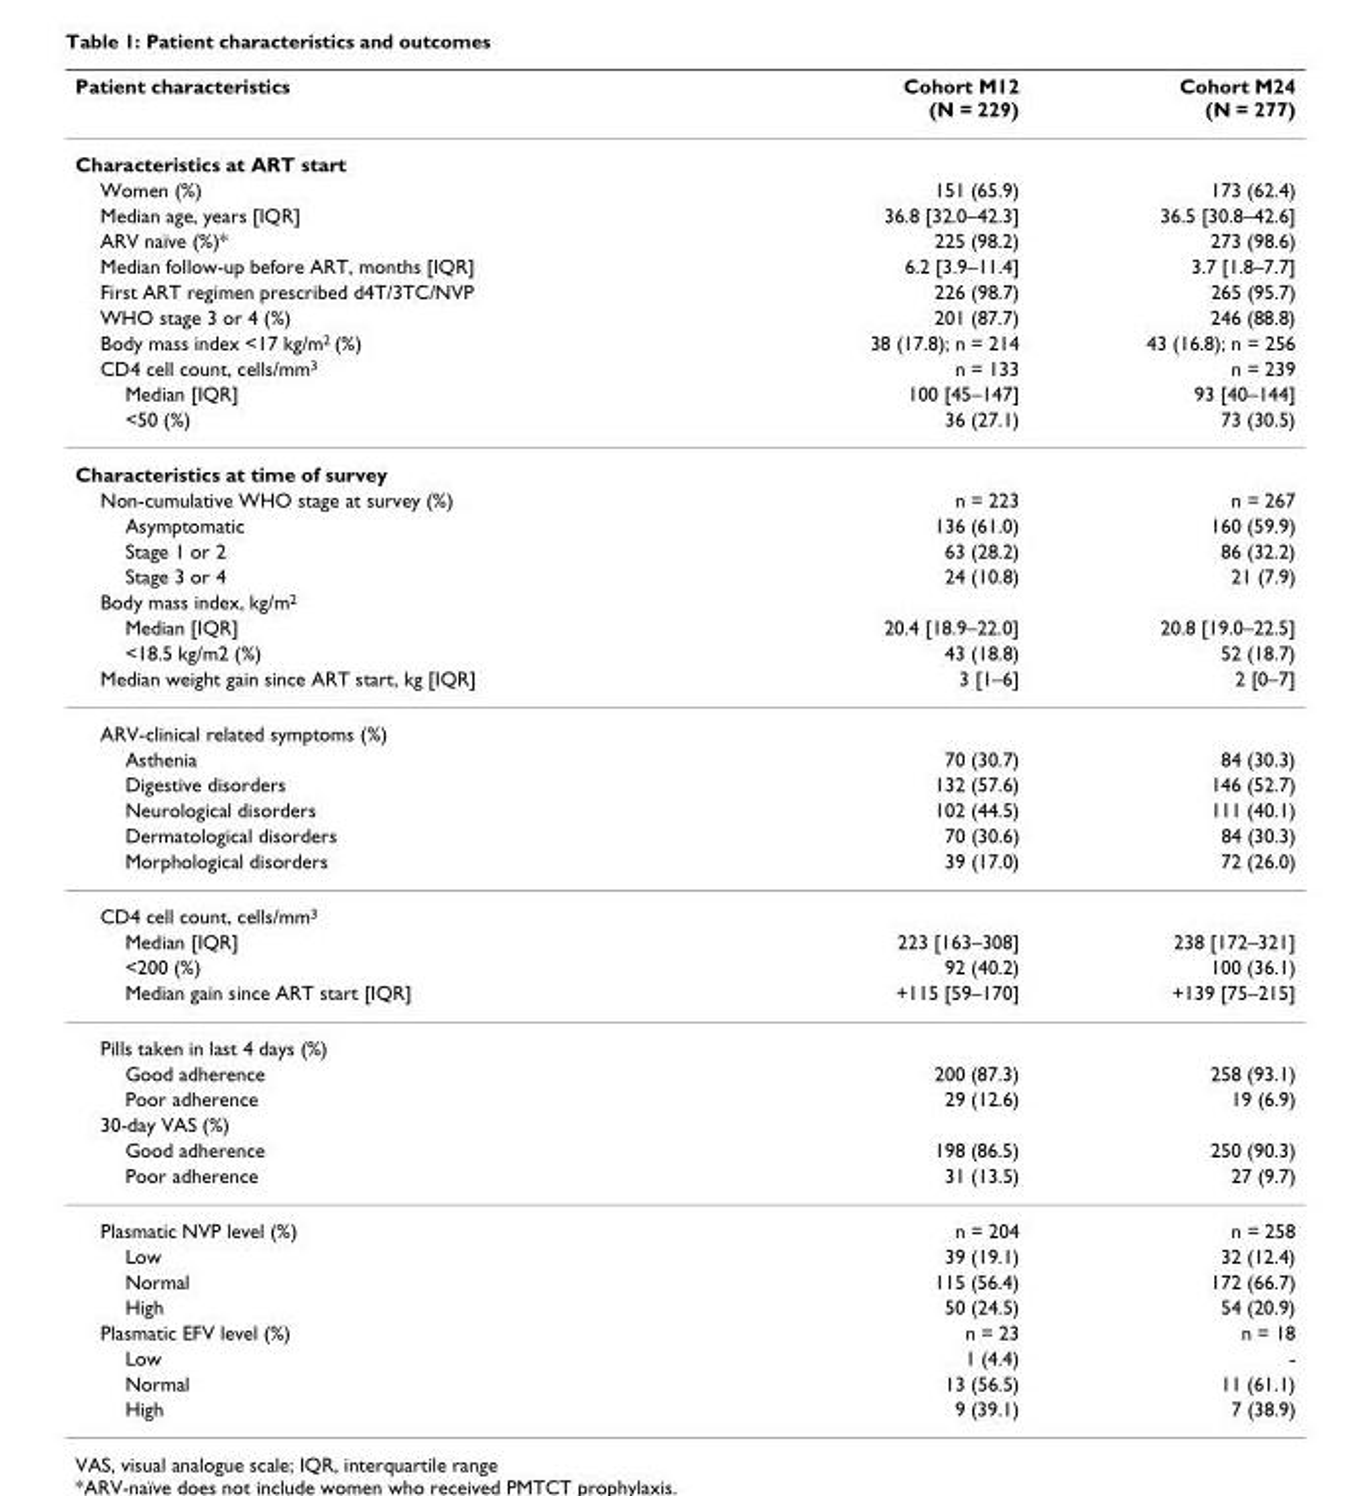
<table><thead><tr><td>Patient characteristics</td><td>Cohort M12 (N = 229)</td><td>Cohort M24 (N = 277)</td></tr></thead><tbody><tr><td colspan="3">Characteristics at ART start</td></tr><tr><td>Women (%)</td><td>151 (65.9)</td><td>173 (62.4)</td></tr><tr><td>Median age, years [IQR]</td><td>36.8 [32.0–42.3]</td><td>36.5 [30.8–42.6]</td></tr><tr><td>ARV naïve (%)*</td><td>225 (98.2)</td><td>273 (98.6)</td></tr><tr><td>Median follow-up before ART, months [IQR]</td><td>6.2 [3.9–11.4]</td><td>3.7 [1.8–7.7]</td></tr><tr><td>First ART regimen prescribed d4T/3TC/NVP</td><td>226 (98.7)</td><td>265 (95.7)</td></tr><tr><td>WHO stage 3 or 4 (%)</td><td>201 (87.7)</td><td>246 (88.8)</td></tr><tr><td>Body mass index &lt;17 kg/m<sup>2</sup> (%)</td><td>38 (17.8); n = 214</td><td>43 (16.8); n = 256</td></tr><tr><td>CD4 cell count, cells/mm<sup>3</sup></td><td>n = 133</td><td>n = 239</td></tr><tr><td>Median [IQR]</td><td>100 [45–147]</td><td>93 [40–144]</td></tr><tr><td>&lt;50 (%)</td><td>36 (27.1)</td><td>73 (30.5)</td></tr><tr><td colspan="3">Characteristics at time of survey</td></tr><tr><td>Non-cumulative WHO stage at survey (%)</td><td>n = 223</td><td>n = 267</td></tr><tr><td>Asymptomatic</td><td>136 (61.0)</td><td>160 (59.9)</td></tr><tr><td>Stage 1 or 2</td><td>63 (28.2)</td><td>86 (32.2)</td></tr><tr><td>Stage 3 or 4</td><td>24 (10.8)</td><td>21 (7.9)</td></tr><tr><td colspan="3">Body mass index, kg/m<sup>2</sup></td></tr><tr><td>Median [IQR]</td><td>20.4 [18.9–22.0]</td><td>20.8 [19.0–22.5]</td></tr><tr><td>&lt;18.5 kg/m2 (%)</td><td>43 (18.8)</td><td>52 (18.7)</td></tr><tr><td>Median weight gain since ART start, kg [IQR]</td><td>3 [1–6]</td><td>2 [0–7]</td></tr><tr><td colspan="3">ARV-clinical related symptoms (%)</td></tr><tr><td>Asthenia</td><td>70 (30.7)</td><td>84 (30.3)</td></tr><tr><td>Digestive disorders</td><td>132 (57.6)</td><td>146 (52.7)</td></tr><tr><td>Neurological disorders</td><td>102 (44.5)</td><td>111 (40.1)</td></tr><tr><td>Dermatological disorders</td><td>70 (30.6)</td><td>84 (30.3)</td></tr><tr><td>Morphological disorders</td><td>39 (17.0)</td><td>72 (26.0)</td></tr><tr><td colspan="3">CD4 cell count, cells/mm<sup>3</sup></td></tr><tr><td>Median [IQR]</td><td>223 [163–308]</td><td>238 [172–321]</td></tr><tr><td>&lt;200 (%)</td><td>92 (40.2)</td><td>100 (36.1)</td></tr><tr><td>Median gain since ART start [IQR]</td><td>+115 [59–170]</td><td>+139 [75–215]</td></tr><tr><td colspan="3">Pills taken in last 4 days (%)</td></tr><tr><td>Good adherence</td><td>200 (87.3)</td><td>258 (93.1)</td></tr><tr><td>Poor adherence</td><td>29 (12.6)</td><td>19 (6.9)</td></tr><tr><td colspan="3">30-day VAS (%)</td></tr><tr><td>Good adherence</td><td>198 (86.5)</td><td>250 (90.3)</td></tr><tr><td>Poor adherence</td><td>31 (13.5)</td><td>27 (9.7)</td></tr><tr><td>Plasmatic NVP level (%)</td><td>n = 204</td><td>n = 258</td></tr><tr><td>Low</td><td>39 (19.1)</td><td>32 (12.4)</td></tr><tr><td>Normal</td><td>115 (56.4)</td><td>172 (66.7)</td></tr><tr><td>High</td><td>50 (24.5)</td><td>54 (20.9)</td></tr><tr><td>Plasmatic EFV level (%)</td><td>n = 23</td><td>n = 18</td></tr><tr><td>Low</td><td>1 (4.4)</td><td>-</td></tr><tr><td>Normal</td><td>13 (56.5)</td><td>11 (61.1)</td></tr><tr><td>High</td><td>9 (39.1)</td><td>7 (38.9)</td></tr></tbody></table>